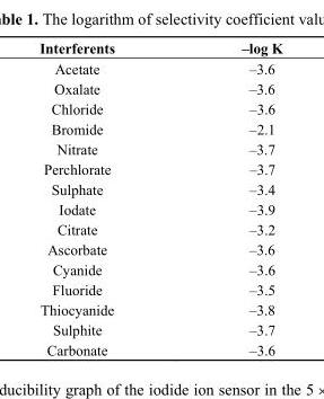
<table><thead><tr><td>Interferents</td><td>–log K</td></tr></thead><tbody><tr><td>Acetate</td><td>–3.6</td></tr><tr><td>Oxalate</td><td>–3.6</td></tr><tr><td>Chloride</td><td>–3.6</td></tr><tr><td>Bromide</td><td>–2.1</td></tr><tr><td>Nitrate</td><td>–3.7</td></tr><tr><td>Perchlorate</td><td>–3.7</td></tr><tr><td>Sulphate</td><td>–3.4</td></tr><tr><td>Iodate</td><td>–3.9</td></tr><tr><td>Citrate</td><td>–3.2</td></tr><tr><td>Ascorbate</td><td>–3.6</td></tr><tr><td>Cyanide</td><td>–3.6</td></tr><tr><td>Fluoride</td><td>–3.5</td></tr><tr><td>Thiocyanide</td><td>–3.8</td></tr><tr><td>Sulphite</td><td>–3.7</td></tr><tr><td>Carbonate</td><td>–3.6</td></tr></tbody></table>